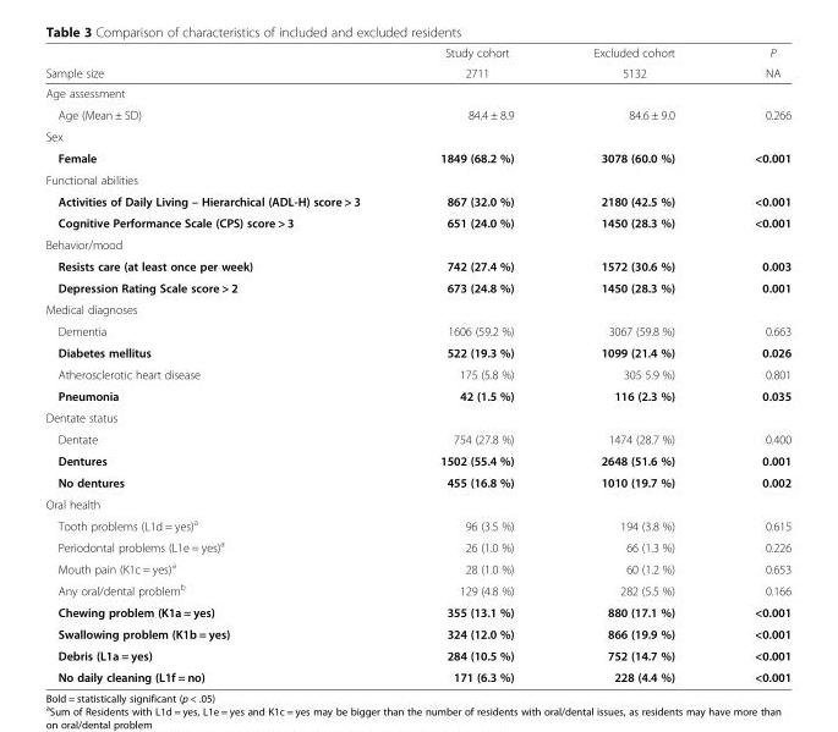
<table><thead><tr><td rowspan="2">Sample size</td><td rowspan="2">Study cohort 2711</td><td rowspan="2">Excluded cohort 5132</td><td rowspan="2">P NA</td></tr><tr></tr></thead><tbody><tr><td colspan="4">Age assessment</td></tr><tr><td>Age (Mean ± SD)</td><td>84.4 ± 8.9</td><td>84.6 ± 9.0</td><td>0.266</td></tr><tr><td colspan="4">Sex</td></tr><tr><td>Female</td><td>1849 (68.2 %)</td><td>3078 (60.0 %)</td><td>&lt;0.001</td></tr><tr><td colspan="4">Functional abilities</td></tr><tr><td>Activities of Daily Living – Hierarchical (ADL-H) score &gt; 3</td><td>867 (32.0 %)</td><td>2180 (42.5 %)</td><td>&lt;0.001</td></tr><tr><td>Cognitive Performance Scale (CPS) score &gt; 3</td><td>651 (24.0 %)</td><td>1450 (28.3 %)</td><td>&lt;0.001</td></tr><tr><td colspan="4">Behavior/mood</td></tr><tr><td>Resists care (at least once per week)</td><td>742 (27.4 %)</td><td>1572 (30.6 %)</td><td>0.003</td></tr><tr><td>Depression Rating Scale score &gt; 2</td><td>673 (24.8 %)</td><td>1450 (28.3 %)</td><td>0.001</td></tr><tr><td colspan="4">Medical diagnoses</td></tr><tr><td>Dementia</td><td>1606 (59.2 %)</td><td>3067 (59.8 %)</td><td>0.663</td></tr><tr><td>Diabetes mellitus</td><td>522 (19.3 %)</td><td>1099 (21.4 %)</td><td>0.026</td></tr><tr><td>Atherosclerotic heart disease</td><td>175 (5.8 %)</td><td>305 5.9 %)</td><td>0.801</td></tr><tr><td>Pneumonia</td><td>42 (1.5 %)</td><td>116 (2.3 %)</td><td>0.035</td></tr><tr><td colspan="4">Dentate status</td></tr><tr><td>Dentate</td><td>754 (27.8 %)</td><td>1474 (28.7 %)</td><td>0.400</td></tr><tr><td>Dentures</td><td>1502 (55.4 %)</td><td>2648 (51.6 %)</td><td>0.001</td></tr><tr><td>No dentures</td><td>455 (16.8 %)</td><td>1010 (19.7 %)</td><td>0.002</td></tr><tr><td colspan="4">Oral health</td></tr><tr><td>Tooth problems (L1d = yes)<sup>a</sup></td><td>96 (3.5 %)</td><td>194 (3.8 %)</td><td>0.615</td></tr><tr><td>Periodontal problems (L1e = yes)<sup>a</sup></td><td>26 (1.0 %)</td><td>66 (1.3 %)</td><td>0.226</td></tr><tr><td>Mouth pain (K1c = yes)<sup>a</sup></td><td>28 (1.0 %)</td><td>60 (1.2 %)</td><td>0.653</td></tr><tr><td>Any oral/dental problem<sup>b</sup></td><td>129 (4.8 %)</td><td>282 (5.5 %)</td><td>0.166</td></tr><tr><td>Chewing problem (K1a = yes)</td><td>355 (13.1 %)</td><td>880 (17.1 %)</td><td>&lt;0.001</td></tr><tr><td>Swallowing problem (K1b = yes)</td><td>324 (12.0 %)</td><td>866 (19.9 %)</td><td>&lt;0.001</td></tr><tr><td>Debris (L1a = yes)</td><td>284 (10.5 %)</td><td>752 (14.7 %)</td><td>&lt;0.001</td></tr><tr><td>No daily cleaning (L1f = no)</td><td>171 (6.3 %)</td><td>228 (4.4 %)</td><td>&lt;0.001</td></tr></tbody></table>